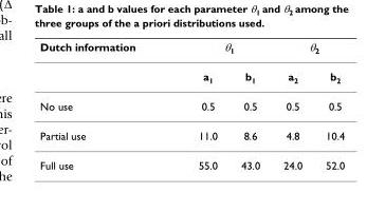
<table><thead><tr><td rowspan="2">Dutch information</td><td colspan="2">θ1</td><td colspan="2">θ2</td></tr><tr><td>a<sub>1</sub></td><td>b<sub>1</sub></td><td>a<sub>2</sub></td><td>b<sub>2</sub></td></tr></thead><tbody><tr><td>No use</td><td>0.5</td><td>0.5</td><td>0.5</td><td>0.5</td></tr><tr><td>Partial use</td><td>11.0</td><td>8.6</td><td>4.8</td><td>10.4</td></tr><tr><td>Full use</td><td>55.0</td><td>43.0</td><td>24.0</td><td>52.0</td></tr></tbody></table>